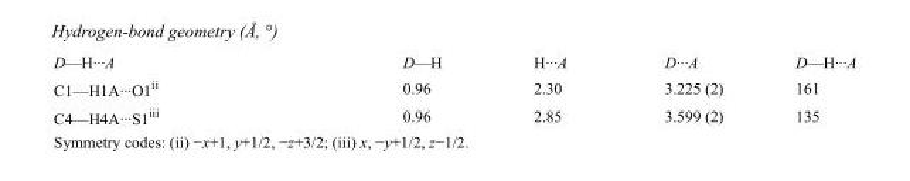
<table><tbody><tr><td>D—H···A</td><td>D—H</td><td>H···A</td><td>D···A</td><td>D—H···A</td></tr><tr><td>C1—H1A···O1<sup>ii</sup></td><td>0.96</td><td>2.30</td><td>3.225 (2)</td><td>161</td></tr><tr><td>C4—H4A···S1<sup>iii</sup></td><td>0.96</td><td>2.85</td><td>3.599 (2)</td><td>135</td></tr></tbody></table>